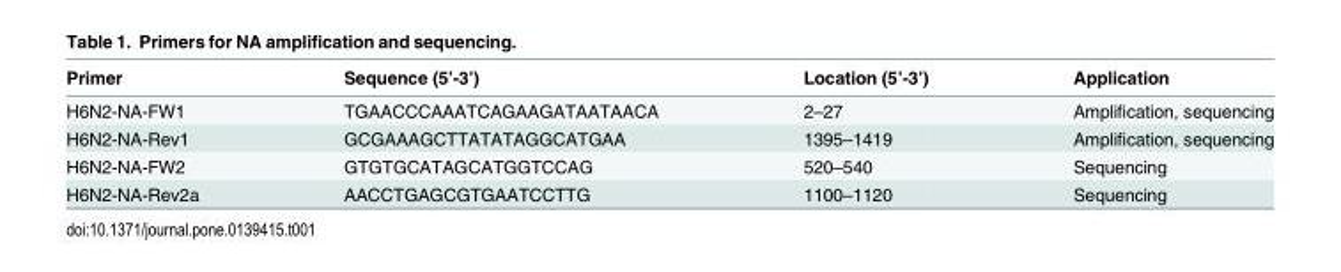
<table><thead><tr><td>Primer</td><td>Sequence (5’-3’)</td><td>Location (5’-3’)</td><td>Application</td></tr></thead><tbody><tr><td>H6N2-NA-FW1</td><td>TGAACCCAAATCAGAAGATAATAACA</td><td>2–27</td><td>Amplification, sequencing</td></tr><tr><td>H6N2-NA-Rev1</td><td>GCGAAAGCTTATATAGGCATGAA</td><td>1395–1419</td><td>Amplification, sequencing</td></tr><tr><td>H6N2-NA-FW2</td><td>GTGTGCATAGCATGGTCCAG</td><td>520–540</td><td>Sequencing</td></tr><tr><td>H6N2-NA-Rev2a</td><td>AACCTGAGCGTGAATCCTTG</td><td>1100–1120</td><td>Sequencing</td></tr></tbody></table>